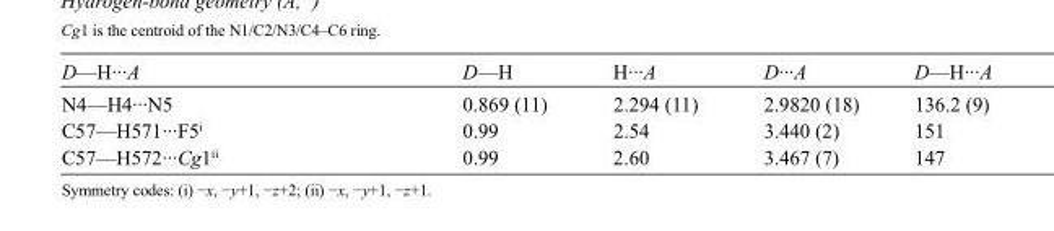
<table><tbody><tr><td>D—H···A</td><td>D—H</td><td>H···A</td><td>D···A</td><td>D—H···A</td></tr><tr><td>N4—H4···N5</td><td>0.869 (11)</td><td>2.294 (11)</td><td>2.9820 (18)</td><td>136.2 (9)</td></tr><tr><td>C57—H571···F5<sup>i</sup></td><td>0.99</td><td>2.54</td><td>3.440 (2)</td><td>151</td></tr><tr><td>C57—H572···Cg1<sup>ii</sup></td><td>0.99</td><td>2.60</td><td>3.467 (7)</td><td>147</td></tr></tbody></table>